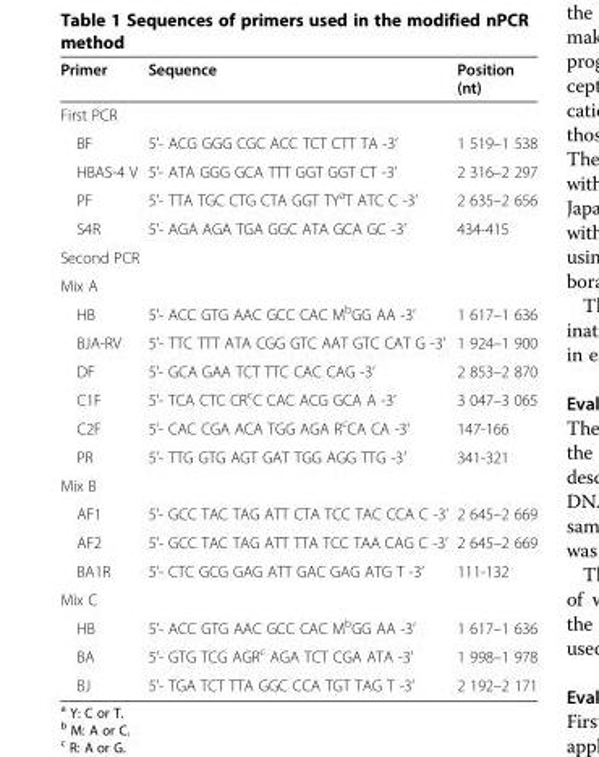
<table><thead><tr><td>Primer</td><td>Sequence</td><td>Position (nt)</td></tr></thead><tbody><tr><td colspan="3">First PCR</td></tr><tr><td>BF</td><td>5’- ACG GGG CGC ACC TCT CTT TA -3’</td><td>1 519–1 538</td></tr><tr><td>HBAS-4 V</td><td>5’- ATA GGG GCA TTT GGT GGT CT -3’</td><td>2 316–2 297</td></tr><tr><td>PF</td><td>5’- TTA TGC CTG CTA GGT TY<sup>a</sup>T ATC C -3’</td><td>2 635–2 656</td></tr><tr><td>S4R</td><td>5’- AGA AGA TGA GGC ATA GCA GC -3’</td><td>434-415</td></tr><tr><td colspan="3">Second PCR</td></tr><tr><td colspan="3">Mix A</td></tr><tr><td>HB</td><td>5’- ACC GTG AAC GCC CAC M<sup>b</sup>GG AA -3’</td><td>1 617–1 636</td></tr><tr><td>BJA-RV</td><td>5’- TTC TTT ATA CGG GTC AAT GTC CAT G -3’</td><td>1 924–1 900</td></tr><tr><td>DF</td><td>5’- GCA GAA TCT TTC CAC CAG -3’</td><td>2 853–2 870</td></tr><tr><td>C1F</td><td>5’- TCA CTC CR<sup>c</sup>C CAC ACG GCA A -3’</td><td>3 047–3 065</td></tr><tr><td>C2F</td><td>5’- CAC CGA ACA TGG AGA R<sup>c</sup>CA CA -3’</td><td>147-166</td></tr><tr><td>PR</td><td>5’- TTG GTG AGT GAT TGG AGG TTG -3’</td><td>341-321</td></tr><tr><td colspan="3">Mix B</td></tr><tr><td>AF1</td><td>5’- GCC TAC TAG ATT CTA TCC TAC CCA C -3’</td><td>2 645–2 669</td></tr><tr><td>AF2</td><td>5’- GCC TAC TAG ATT TTA TCC TAA CAG C -3’</td><td>2 645–2 669</td></tr><tr><td>BA1R</td><td>5’- CTC GCG GAG ATT GAC GAG ATG T -3’</td><td>111-132</td></tr><tr><td colspan="3">Mix C</td></tr><tr><td>HB</td><td>5’- ACC GTG AAC GCC CAC M<sup>b</sup>GG AA -3’</td><td>1 617–1 636</td></tr><tr><td>BA</td><td>5’- GTG TCG AGR<sup>c</sup> AGA TCT CGA ATA -3’</td><td>1 998–1 978</td></tr><tr><td>BJ</td><td>5’- TGA TCT TTA GGC CCA TGT TAG T -3’</td><td>2 192–2 171</td></tr></tbody></table>